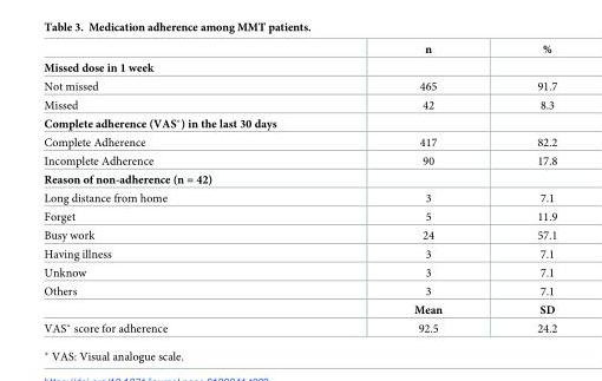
<table><thead><tr><td></td><td>n</td><td>%</td></tr></thead><tbody><tr><td colspan="3">Missed dose in 1 week</td></tr><tr><td>Not missed</td><td>465</td><td>91.7</td></tr><tr><td>Missed</td><td>42</td><td>8.3</td></tr><tr><td colspan="3">Complete adherence (VAS*) in the last 30 days</td></tr><tr><td>Complete Adherence</td><td>417</td><td>82.2</td></tr><tr><td>Incomplete Adherence</td><td>90</td><td>17.8</td></tr><tr><td colspan="3">Reason of non-adherence (n = 42)</td></tr><tr><td>Long distance from home</td><td>3</td><td>7.1</td></tr><tr><td>Forget</td><td>5</td><td>11.9</td></tr><tr><td>Busy work</td><td>24</td><td>57.1</td></tr><tr><td>Having illness</td><td>3</td><td>7.1</td></tr><tr><td>Unknow</td><td>3</td><td>7.1</td></tr><tr><td rowspan="2">Others</td><td>3</td><td>7.1</td></tr><tr><td>Mean</td><td>SD</td></tr><tr><td>VAS* score for adherence</td><td>92.5</td><td>24.2</td></tr></tbody></table>